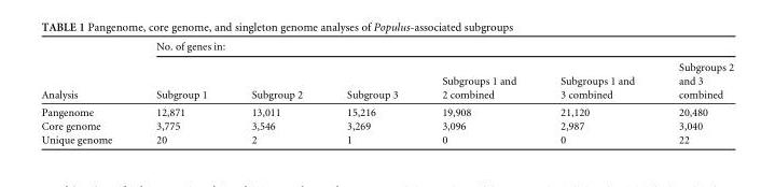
<table><thead><tr><td rowspan="2">Analysis</td><td colspan="6">No. of genes in:</td></tr><tr><td>Subgroup 1</td><td>Subgroup 2</td><td>Subgroup 3</td><td>Subgroups 1 and 2 combined</td><td>Subgroups 1 and 3 combined</td><td>Subgroups 2 and 3 combined</td></tr></thead><tbody><tr><td>Pangenome</td><td>12,871</td><td>13,011</td><td>15,216</td><td>19,908</td><td>21,120</td><td>20,480</td></tr><tr><td>Core genome</td><td>3,775</td><td>3,546</td><td>3,269</td><td>3,096</td><td>2,987</td><td>3,040</td></tr><tr><td>Unique genome</td><td>20</td><td>2</td><td>1</td><td>0</td><td>0</td><td>22</td></tr></tbody></table>